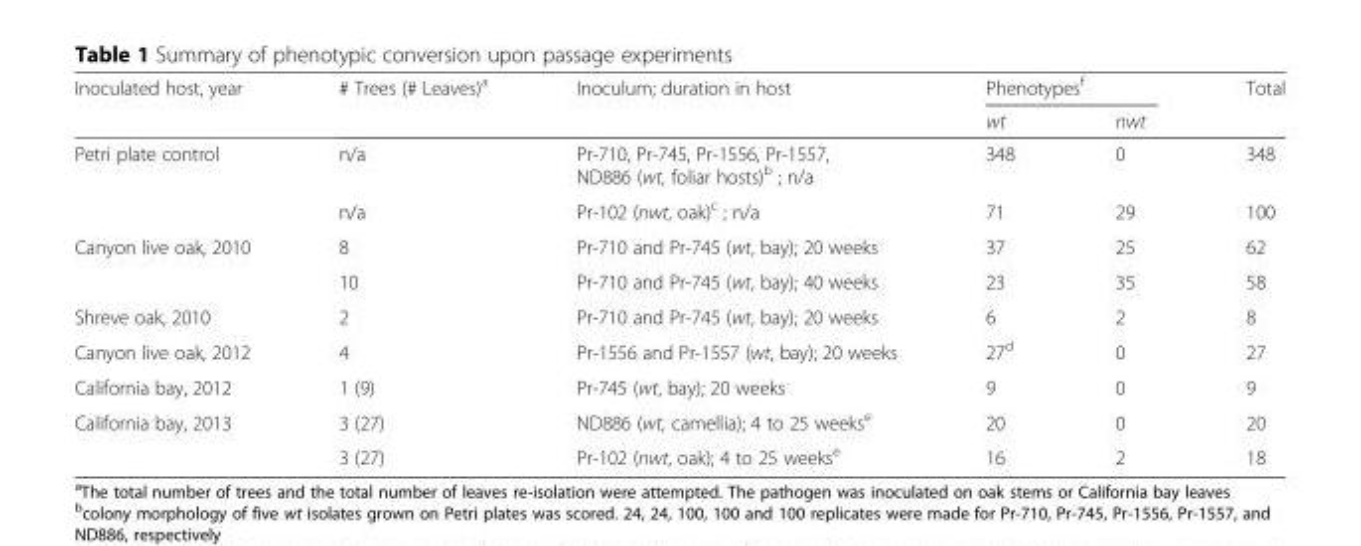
<table><thead><tr><td rowspan="2">Inoculated host, year</td><td rowspan="2"># Trees (# Leaves)<sup>a</sup></td><td rowspan="2">Inoculum; duration in host</td><td colspan="2">Phenotypes<sup>f</sup></td><td rowspan="2">Total</td></tr><tr><td>wt</td><td>nwt</td></tr></thead><tbody><tr><td rowspan="2">Petri plate control</td><td>n/a</td><td>Pr-710, Pr-745, Pr-1556, Pr-1557, ND886 (wt, foliar hosts)<sup>b</sup> ; n/a</td><td>348</td><td>0</td><td>348</td></tr><tr><td>n/a</td><td>Pr-102 (nwt, oak)<sup>c</sup> ; n/a</td><td>71</td><td>29</td><td>100</td></tr><tr><td rowspan="2">Canyon live oak, 2010</td><td>8</td><td>Pr-710 and Pr-745 (wt, bay); 20 weeks</td><td>37</td><td>25</td><td>62</td></tr><tr><td>10</td><td>Pr-710 and Pr-745 (wt, bay); 40 weeks</td><td>23</td><td>35</td><td>58</td></tr><tr><td>Shreve oak, 2010</td><td>2</td><td>Pr-710 and Pr-745 (wt, bay); 20 weeks</td><td>6</td><td>2</td><td>8</td></tr><tr><td>Canyon live oak, 2012</td><td>4</td><td>Pr-1556 and Pr-1557 (wt, bay); 20 weeks</td><td>27<sup>d</sup></td><td>0</td><td>27</td></tr><tr><td>California bay, 2012</td><td>1 (9)</td><td>Pr-745 (wt, bay); 20 weeks</td><td>9</td><td>0</td><td>9</td></tr><tr><td rowspan="2">California bay, 2013</td><td>3 (27)</td><td>ND886 (wt, camellia); 4 to 25 weeks<sup>e</sup></td><td>20</td><td>0</td><td>20</td></tr><tr><td>3 (27)</td><td>Pr-102 (nwt, oak); 4 to 25 weeks<sup>e</sup></td><td>16</td><td>2</td><td>18</td></tr></tbody></table>